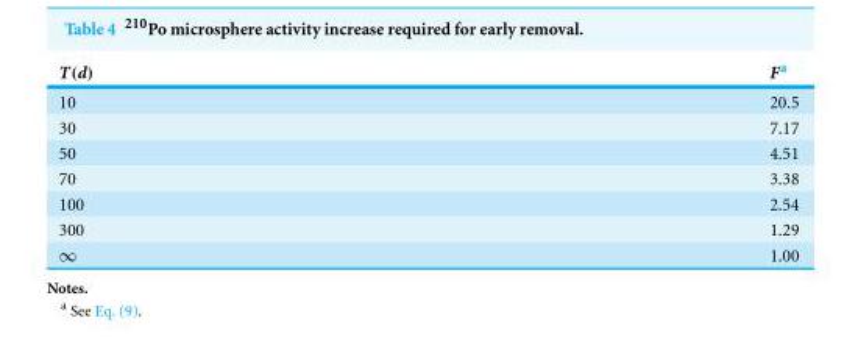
<table><thead><tr><td>T(d)</td><td>F<sup>a</sup></td></tr></thead><tbody><tr><td>10</td><td>20.5</td></tr><tr><td>30</td><td>7.17</td></tr><tr><td>50</td><td>4.51</td></tr><tr><td>70</td><td>3.38</td></tr><tr><td>100</td><td>2.54</td></tr><tr><td>300</td><td>1.29</td></tr><tr><td>∞</td><td>1.00</td></tr></tbody></table>